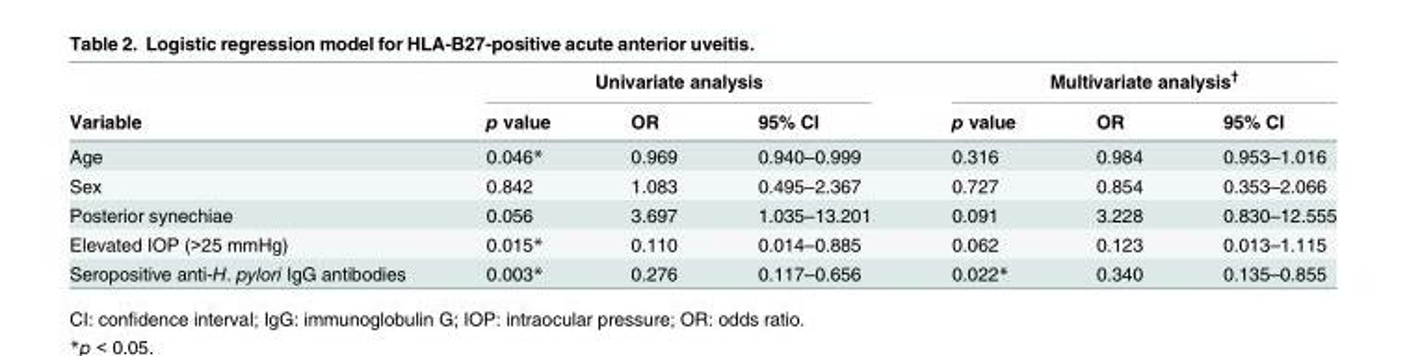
<table><thead><tr><td rowspan="2">Variable</td><td colspan="3">Univariate analysis</td><td colspan="3">Multivariate analysis<sup>†</sup></td></tr><tr><td>p value</td><td>OR</td><td>95% CI</td><td>p value</td><td>OR</td><td>95% CI</td></tr></thead><tbody><tr><td>Age</td><td>0.046*</td><td>0.969</td><td>0.940–0.999</td><td>0.316</td><td>0.984</td><td>0.953–1.016</td></tr><tr><td>Sex</td><td>0.842</td><td>1.083</td><td>0.495–2.367</td><td>0.727</td><td>0.854</td><td>0.353–2.066</td></tr><tr><td>Posterior synechiae</td><td>0.056</td><td>3.697</td><td>1.035–13.201</td><td>0.091</td><td>3.228</td><td>0.830–12.555</td></tr><tr><td>Elevated IOP (&gt;25 mmHg)</td><td>0.015*</td><td>0.110</td><td>0.014–0.885</td><td>0.062</td><td>0.123</td><td>0.013–1.115</td></tr><tr><td>Seropositive anti-H. pylori IgG antibodies</td><td>0.003*</td><td>0.276</td><td>0.117–0.656</td><td>0.022*</td><td>0.340</td><td>0.135–0.855</td></tr></tbody></table>